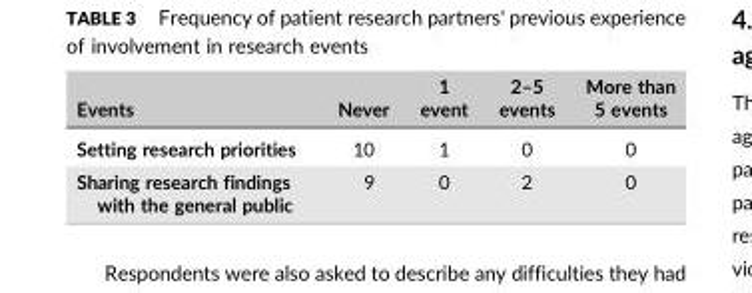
<table><thead><tr><td>Events</td><td>Never</td><td>1 event</td><td>2–5 events</td><td>More than 5 events</td></tr></thead><tbody><tr><td>Setting research priorities</td><td>10</td><td>1</td><td>0</td><td>0</td></tr><tr><td>Sharing research findings with the general public</td><td>9</td><td>0</td><td>2</td><td>0</td></tr></tbody></table>